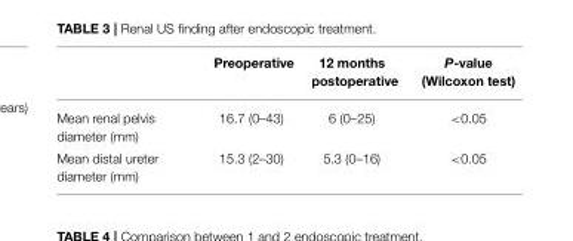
<table><thead><tr><td></td><td>Preoperative</td><td>12 months postoperative</td><td>P-value (Wilcoxon test)</td></tr></thead><tbody><tr><td>Mean renal pelvis diameter (mm)</td><td>16.7 (0–43)</td><td>6 (0–25)</td><td>&lt;0.05</td></tr><tr><td>Mean distal ureter diameter (mm)</td><td>15.3 (2–30)</td><td>5.3 (0–16)</td><td>&lt;0.05</td></tr></tbody></table>